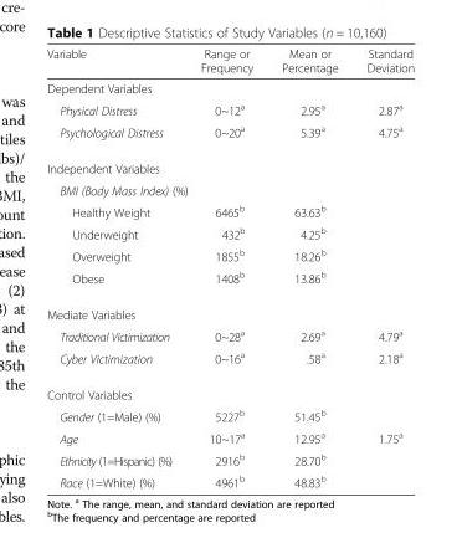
<table><thead><tr><td>Variable</td><td>Range or Frequency</td><td>Mean or Percentage</td><td>Standard Deviation</td></tr></thead><tbody><tr><td colspan="4">Dependent Variables</td></tr><tr><td>Physical Distress</td><td>0~12<sup>a</sup></td><td>2.95<sup>a</sup></td><td>2.87<sup>a</sup></td></tr><tr><td>Psychological Distress</td><td>0~20<sup>a</sup></td><td>5.39<sup>a</sup></td><td>4.75<sup>a</sup></td></tr><tr><td colspan="4">Independent Variables</td></tr><tr><td colspan="4">BMI (Body Mass Index) (%)</td></tr><tr><td>Healthy Weight</td><td>6465<sup>b</sup></td><td>63.63<sup>b</sup></td><td rowspan="4"></td></tr><tr><td>Underweight</td><td>432<sup>b</sup></td><td>4.25<sup>b</sup></td></tr><tr><td>Overweight</td><td>1855<sup>b</sup></td><td>18.26<sup>b</sup></td></tr><tr><td>Obese</td><td>1408<sup>b</sup></td><td>13.86<sup>b</sup></td></tr><tr><td colspan="4">Mediate Variables</td></tr><tr><td>Traditional Victimization</td><td>0~28<sup>a</sup></td><td>2.69<sup>a</sup></td><td>4.79<sup>a</sup></td></tr><tr><td>Cyber Victimization</td><td>0~16<sup>a</sup></td><td>.58<sup>a</sup></td><td>2.18<sup>a</sup></td></tr><tr><td colspan="4">Control Variables</td></tr><tr><td>Gender (1=Male) (%)</td><td>5227<sup>b</sup></td><td>51.45<sup>b</sup></td><td></td></tr><tr><td>Age</td><td>10~17<sup>a</sup></td><td>12.95<sup>a</sup></td><td>1.75<sup>a</sup></td></tr><tr><td>Ethnicity (1=Hispanic) (%)</td><td>2916<sup>b</sup></td><td>28.70<sup>b</sup></td><td rowspan="2"></td></tr><tr><td>Race (1=White) (%)</td><td>4961<sup>b</sup></td><td>48.83<sup>b</sup></td></tr></tbody></table>